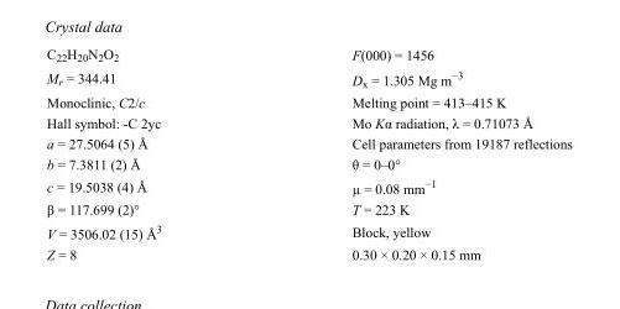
<table><tbody><tr><td>C<sub>22</sub>H<sub>20</sub>N<sub>2</sub>O<sub>2</sub></td><td>F(000) = 1456</td></tr><tr><td>M<sub>r</sub> = 344.41</td><td>D<sub>x</sub> = 1.305 Mg m<sup>−3</sup></td></tr><tr><td>Monoclinic, C2/c</td><td>Melting point = 413–415 K</td></tr><tr><td>Hall symbol: -C 2yc</td><td>Mo Kα radiation, λ = 0.71073 Å</td></tr><tr><td>a = 27.5064 (5) Å</td><td>Cell parameters from 19187 reflections</td></tr><tr><td>b = 7.3811 (2) Å</td><td>θ = 0–0°</td></tr><tr><td>c = 19.5038 (4) Å</td><td>µ = 0.08 mm<sup>−1</sup></td></tr><tr><td>β = 117.699 (2)°</td><td>T = 223 K</td></tr><tr><td>V = 3506.02 (15) Å<sup>3</sup></td><td>Block, yellow</td></tr><tr><td>Z = 8</td><td>0.30 × 0.20 × 0.15 mm</td></tr></tbody></table>